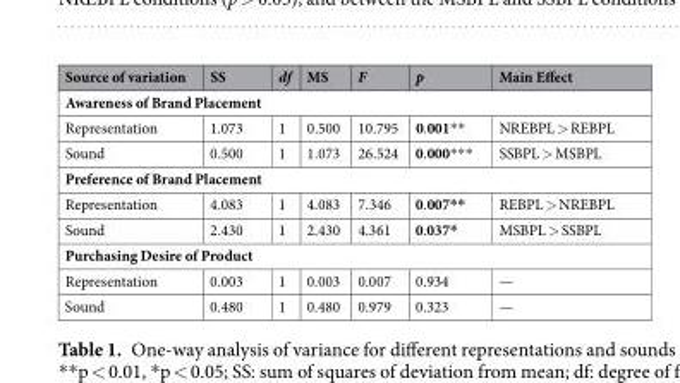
<table><thead><tr><td>Source of variation</td><td>SS</td><td>df</td><td>MS</td><td>F</td><td>p</td><td>Main Effect</td></tr></thead><tbody><tr><td colspan="7">Awareness of Brand Placement</td></tr><tr><td>Representation</td><td>1.073</td><td>1</td><td>0.500</td><td>10.795</td><td>0.001**</td><td>NREBPL &gt; REBPL</td></tr><tr><td>Sound</td><td>0.500</td><td>1</td><td>1.073</td><td>26.524</td><td>0.000***</td><td>SSBPL &gt; MSBPL</td></tr><tr><td colspan="7">Preference of Brand Placement</td></tr><tr><td>Representation</td><td>4.083</td><td>1</td><td>4.083</td><td>7.346</td><td>0.007**</td><td>REBPL &gt; NREBPL</td></tr><tr><td>Sound</td><td>2.430</td><td>1</td><td>2.430</td><td>4.361</td><td>0.037*</td><td>MSBPL &gt; SSBPL</td></tr><tr><td colspan="7">Purchasing Desire of Product</td></tr><tr><td>Representation</td><td>0.003</td><td>1</td><td>0.003</td><td>0.007</td><td>0.934</td><td>—</td></tr><tr><td>Sound</td><td>0.480</td><td>1</td><td>0.480</td><td>0.979</td><td>0.323</td><td>—</td></tr></tbody></table>